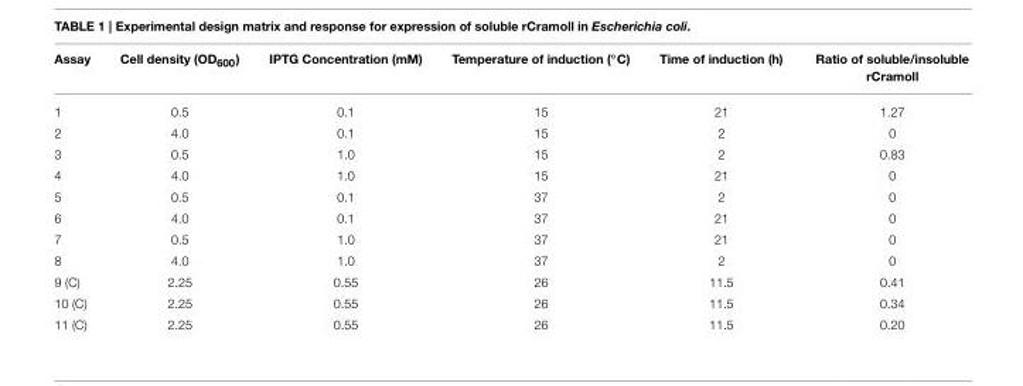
<table><thead><tr><td>Assay</td><td>Cell density (OD<sub>600</sub>)</td><td>IPTG Concentration (mM)</td><td>Temperature of induction (◦C)</td><td>Time of induction (h)</td><td>Ratio of soluble/insoluble rCramoll</td></tr></thead><tbody><tr><td>1</td><td>0.5</td><td>0.1</td><td>15</td><td>21</td><td>1.27</td></tr><tr><td>2</td><td>4.0</td><td>0.1</td><td>15</td><td>2</td><td>0</td></tr><tr><td>3</td><td>0.5</td><td>1.0</td><td>15</td><td>2</td><td>0.83</td></tr><tr><td>4</td><td>4.0</td><td>1.0</td><td>15</td><td>21</td><td>0</td></tr><tr><td>5</td><td>0.5</td><td>0.1</td><td>37</td><td>2</td><td>0</td></tr><tr><td>6</td><td>4.0</td><td>0.1</td><td>37</td><td>21</td><td>0</td></tr><tr><td>7</td><td>0.5</td><td>1.0</td><td>37</td><td>21</td><td>0</td></tr><tr><td>8</td><td>4.0</td><td>1.0</td><td>37</td><td>2</td><td>0</td></tr><tr><td>9 (C)</td><td>2.25</td><td>0.55</td><td>26</td><td>11.5</td><td>0.41</td></tr><tr><td>10 (C)</td><td>2.25</td><td>0.55</td><td>26</td><td>11.5</td><td>0.34</td></tr><tr><td>11 (C)</td><td>2.25</td><td>0.55</td><td>26</td><td>11.5</td><td>0.20</td></tr></tbody></table>